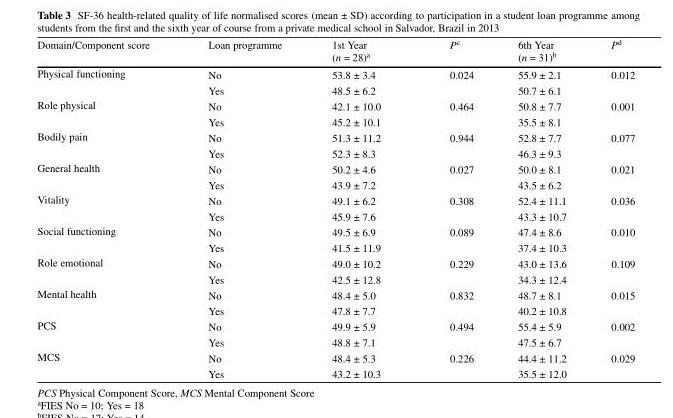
<table><thead><tr><td>Domain/Component score</td><td>Loan programme</td><td>1st Year (n = 28)<sup>a</sup></td><td>P<sup>c</sup></td><td>6th Year (n = 31)<sup>b</sup></td><td>P<sup>d</sup></td></tr></thead><tbody><tr><td rowspan="2">Physical functioning</td><td>No</td><td>53.8 ± 3.4</td><td>0.024</td><td>55.9 ± 2.1</td><td>0.012</td></tr><tr><td>Yes</td><td>48.5 ± 6.2</td><td></td><td>50.7 ± 6.1</td><td></td></tr><tr><td rowspan="2">Role physical</td><td>No</td><td>42.1 ± 10.0</td><td>0.464</td><td>50.8 ± 7.7</td><td>0.001</td></tr><tr><td>Yes</td><td>45.2 ± 10.1</td><td></td><td>35.5 ± 8.1</td><td></td></tr><tr><td rowspan="2">Bodily pain</td><td>No</td><td>51.3 ± 11.2</td><td>0.944</td><td>52.8 ± 7.7</td><td>0.077</td></tr><tr><td>Yes</td><td>52.3 ± 8.3</td><td></td><td>46.3 ± 9.3</td><td></td></tr><tr><td rowspan="2">General health</td><td>No</td><td>50.2 ± 4.6</td><td>0.027</td><td>50.0 ± 8.1</td><td>0.021</td></tr><tr><td>Yes</td><td>43.9 ± 7.2</td><td></td><td>43.5 ± 6.2</td><td></td></tr><tr><td rowspan="2">Vitality</td><td>No</td><td>49.1 ± 6.2</td><td>0.308</td><td>52.4 ± 11.1</td><td>0.036</td></tr><tr><td>Yes</td><td>45.9 ± 7.6</td><td></td><td>43.3 ± 10.7</td><td></td></tr><tr><td rowspan="2">Social functioning</td><td>No</td><td>49.5 ± 6.9</td><td>0.089</td><td>47.4 ± 8.6</td><td>0.010</td></tr><tr><td>Yes</td><td>41.5 ± 11.9</td><td></td><td>37.4 ± 10.3</td><td></td></tr><tr><td rowspan="2">Role emotional</td><td>No</td><td>49.0 ± 10.2</td><td>0.229</td><td>43.0 ± 13.6</td><td>0.109</td></tr><tr><td>Yes</td><td>42.5 ± 12.8</td><td></td><td>34.3 ± 12.4</td><td></td></tr><tr><td rowspan="2">Mental health</td><td>No</td><td>48.4 ± 5.0</td><td>0.832</td><td>48.7 ± 8.1</td><td>0.015</td></tr><tr><td>Yes</td><td>47.8 ± 7.7</td><td></td><td>40.2 ± 10.8</td><td></td></tr><tr><td rowspan="2">PCS</td><td>No</td><td>49.9 ± 5.9</td><td>0.494</td><td>55.4 ± 5.9</td><td>0.002</td></tr><tr><td>Yes</td><td>48.8 ± 7.1</td><td></td><td>47.5 ± 6.7</td><td></td></tr><tr><td rowspan="2">MCS</td><td>No</td><td>48.4 ± 5.3</td><td>0.226</td><td>44.4 ± 11.2</td><td>0.029</td></tr><tr><td>Yes</td><td>43.2 ± 10.3</td><td></td><td>35.5 ± 12.0</td><td></td></tr></tbody></table>